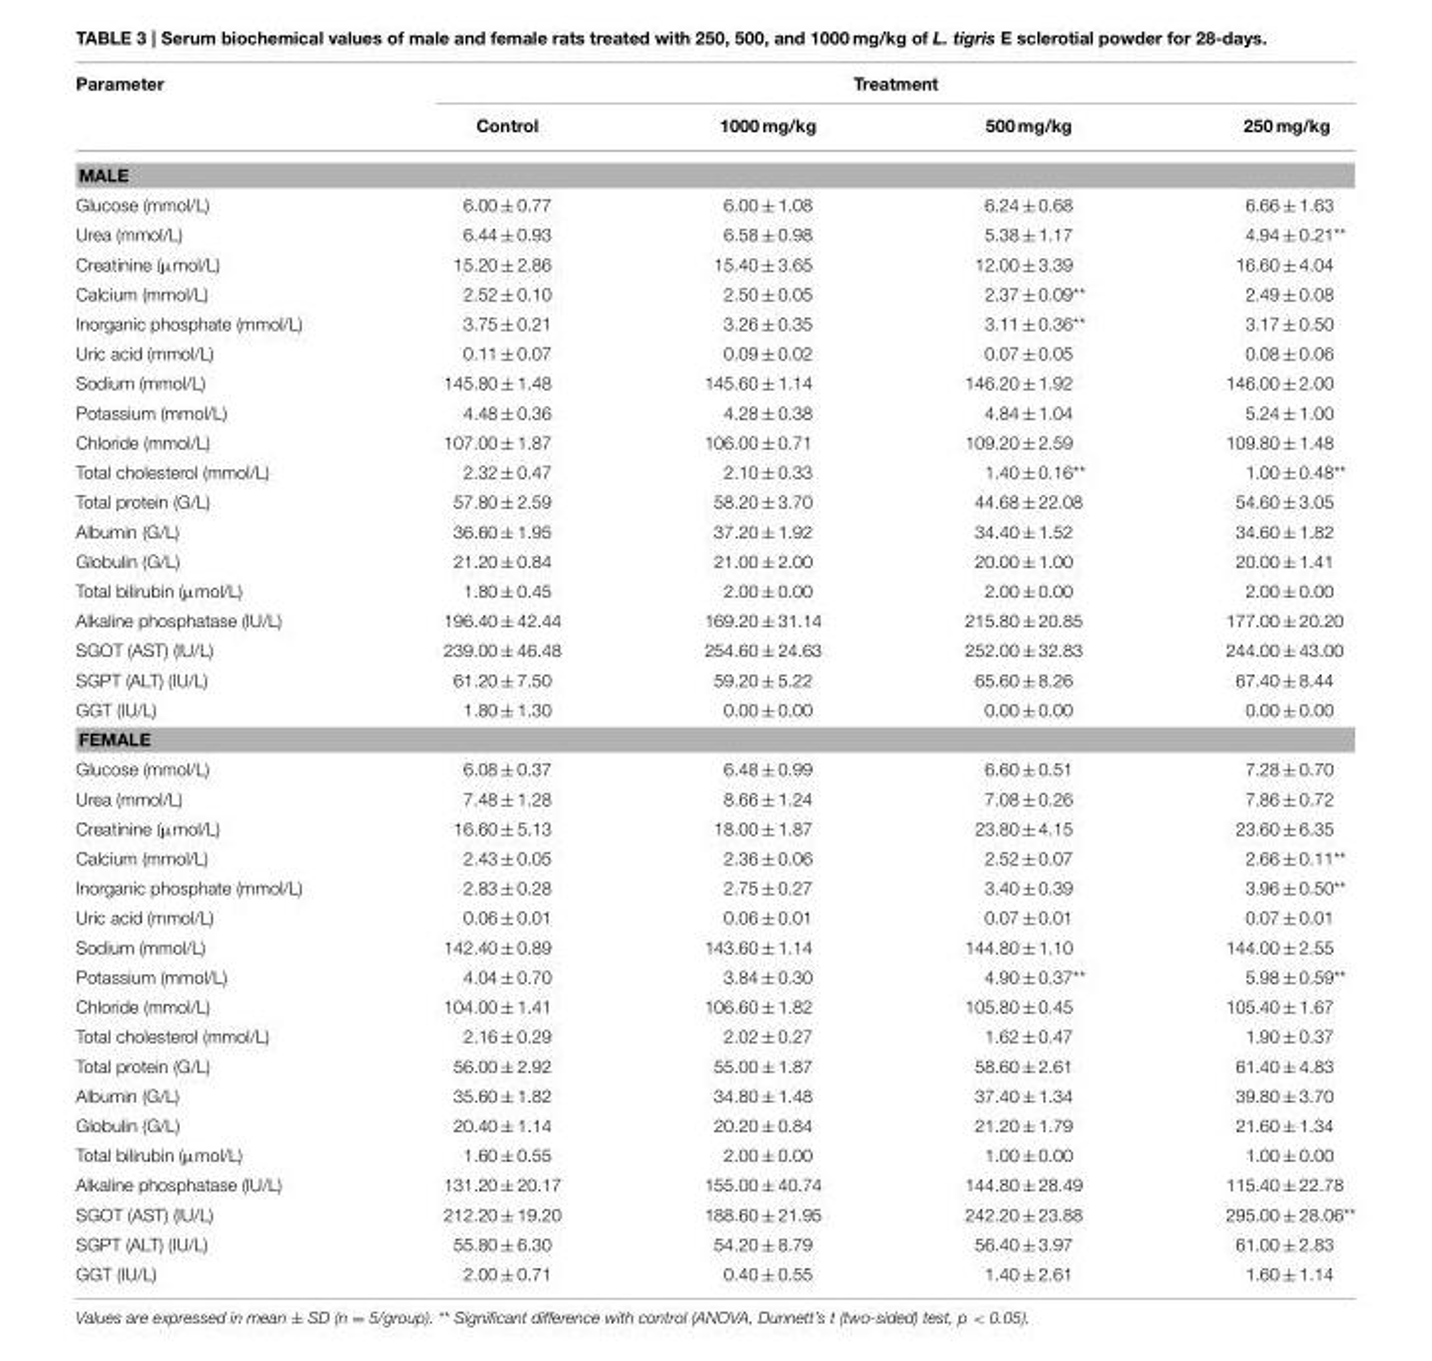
<table><thead><tr><td rowspan="2">Parameter</td><td colspan="4">Treatment</td></tr><tr><td>Control</td><td>1000 mg/kg</td><td>500 mg/kg</td><td>250 mg/kg</td></tr></thead><tbody><tr><td colspan="5">MALE</td></tr><tr><td>Glucose (mmol/L)</td><td>6.00 ± 0.77</td><td>6.00 ± 1.08</td><td>6.24 ± 0.68</td><td>6.66 ± 1.63</td></tr><tr><td>Urea (mmol/L)</td><td>6.44 ± 0.93</td><td>6.58 ± 0.98</td><td>5.38 ± 1.17</td><td>4.94 ± 0.21**</td></tr><tr><td>Creatinine (µmol/L)</td><td>15.20 ± 2.86</td><td>15.40 ± 3.65</td><td>12.00 ± 3.39</td><td>16.60 ± 4.04</td></tr><tr><td>Calcium (mmol/L)</td><td>2.52 ± 0.10</td><td>2.50 ± 0.05</td><td>2.37 ± 0.09**</td><td>2.49 ± 0.08</td></tr><tr><td>Inorganic phosphate (mmol/L)</td><td>3.75 ± 0.21</td><td>3.26 ± 0.35</td><td>3.11 ± 0.36**</td><td>3.17 ± 0.50</td></tr><tr><td>Uric acid (mmol/L)</td><td>0.11 ± 0.07</td><td>0.09 ± 0.02</td><td>0.07 ± 0.05</td><td>0.08 ± 0.06</td></tr><tr><td>Sodium (mmol/L)</td><td>145.80 ± 1.48</td><td>145.60 ± 1.14</td><td>146.20 ± 1.92</td><td>146.00 ± 2.00</td></tr><tr><td>Potassium (mmol/L)</td><td>4.48 ± 0.36</td><td>4.28 ± 0.38</td><td>4.84 ± 1.04</td><td>5.24 ± 1.00</td></tr><tr><td>Chloride (mmol/L)</td><td>107.00 ± 1.87</td><td>106.00 ± 0.71</td><td>109.20 ± 2.59</td><td>109.80 ± 1.48</td></tr><tr><td>Total cholesterol (mmol/L)</td><td>2.32 ± 0.47</td><td>2.10 ± 0.33</td><td>1.40 ± 0.16**</td><td>1.00 ± 0.48**</td></tr><tr><td>Total protein (G/L)</td><td>57.80 ± 2.59</td><td>58.20 ± 3.70</td><td>44.68 ± 22.08</td><td>54.60 ± 3.05</td></tr><tr><td>Albumin (G/L)</td><td>36.60 ± 1.95</td><td>37.20 ± 1.92</td><td>34.40 ± 1.52</td><td>34.60 ± 1.82</td></tr><tr><td>Globulin (G/L)</td><td>21.20 ± 0.84</td><td>21.00 ± 2.00</td><td>20.00 ± 1.00</td><td>20.00 ± 1.41</td></tr><tr><td>Total bilirubin (µmol/L)</td><td>1.80 ± 0.45</td><td>2.00 ± 0.00</td><td>2.00 ± 0.00</td><td>2.00 ± 0.00</td></tr><tr><td>Alkaline phosphatase (IU/L)</td><td>196.40 ± 42.44</td><td>169.20 ± 31.14</td><td>215.80 ± 20.85</td><td>177.00 ± 20.20</td></tr><tr><td>SGOT (AST) (IU/L)</td><td>239.00 ± 46.48</td><td>254.60 ± 24.63</td><td>252.00 ± 32.83</td><td>244.00 ± 43.00</td></tr><tr><td>SGPT (ALT) (IU/L)</td><td>61.20 ± 7.50</td><td>59.20 ± 5.22</td><td>65.60 ± 8.26</td><td>67.40 ± 8.44</td></tr><tr><td>GGT (IU/L)</td><td>1.80 ± 1.30</td><td>0.00 ± 0.00</td><td>0.00 ± 0.00</td><td>0.00 ± 0.00</td></tr><tr><td colspan="5">FEMALE</td></tr><tr><td>Glucose (mmol/L)</td><td>6.08 ± 0.37</td><td>6.48 ± 0.99</td><td>6.60 ± 0.51</td><td>7.28 ± 0.70</td></tr><tr><td>Urea (mmol/L)</td><td>7.48 ± 1.28</td><td>8.66 ± 1.24</td><td>7.08 ± 0.26</td><td>7.86 ± 0.72</td></tr><tr><td>Creatinine (µmol/L)</td><td>16.60 ± 5.13</td><td>18.00 ± 1.87</td><td>23.80 ± 4.15</td><td>23.60 ± 6.35</td></tr><tr><td>Calcium (mmol/L)</td><td>2.43 ± 0.05</td><td>2.36 ± 0.06</td><td>2.52 ± 0.07</td><td>2.66 ± 0.11**</td></tr><tr><td>Inorganic phosphate (mmol/L)</td><td>2.83 ± 0.28</td><td>2.75 ± 0.27</td><td>3.40 ± 0.39</td><td>3.96 ± 0.50**</td></tr><tr><td>Uric acid (mmol/L)</td><td>0.06 ± 0.01</td><td>0.06 ± 0.01</td><td>0.07 ± 0.01</td><td>0.07 ± 0.01</td></tr><tr><td>Sodium (mmol/L)</td><td>142.40 ± 0.89</td><td>143.60 ± 1.14</td><td>144.80 ± 1.10</td><td>144.00 ± 2.55</td></tr><tr><td>Potassium (mmol/L)</td><td>4.04 ± 0.70</td><td>3.84 ± 0.30</td><td>4.90 ± 0.37**</td><td>5.98 ± 0.59**</td></tr><tr><td>Chloride (mmol/L)</td><td>104.00 ± 1.41</td><td>106.60 ± 1.82</td><td>105.80 ± 0.45</td><td>105.40 ± 1.67</td></tr><tr><td>Total cholesterol (mmol/L)</td><td>2.16 ± 0.29</td><td>2.02 ± 0.27</td><td>1.62 ± 0.47</td><td>1.90 ± 0.37</td></tr><tr><td>Total protein (G/L)</td><td>56.00 ± 2.92</td><td>55.00 ± 1.87</td><td>58.60 ± 2.61</td><td>61.40 ± 4.83</td></tr><tr><td>Albumin (G/L)</td><td>35.60 ± 1.82</td><td>34.80 ± 1.48</td><td>37.40 ± 1.34</td><td>39.80 ± 3.70</td></tr><tr><td>Globulin (G/L)</td><td>20.40 ± 1.14</td><td>20.20 ± 0.84</td><td>21.20 ± 1.79</td><td>21.60 ± 1.34</td></tr><tr><td>Total bilirubin (µmol/L)</td><td>1.60 ± 0.55</td><td>2.00 ± 0.00</td><td>1.00 ± 0.00</td><td>1.00 ± 0.00</td></tr><tr><td>Alkaline phosphatase (IU/L)</td><td>131.20 ± 20.17</td><td>155.00 ± 40.74</td><td>144.80 ± 28.49</td><td>115.40 ± 22.78</td></tr><tr><td>SGOT (AST) (IU/L)</td><td>212.20 ± 19.20</td><td>188.60 ± 21.95</td><td>242.20 ± 23.88</td><td>295.00 ± 28.06**</td></tr><tr><td>SGPT (ALT) (IU/L)</td><td>55.80 ± 6.30</td><td>54.20 ± 8.79</td><td>56.40 ± 3.97</td><td>61.00 ± 2.83</td></tr><tr><td>GGT (IU/L)</td><td>2.00 ± 0.71</td><td>0.40 ± 0.55</td><td>1.40 ± 2.61</td><td>1.60 ± 1.14</td></tr></tbody></table>